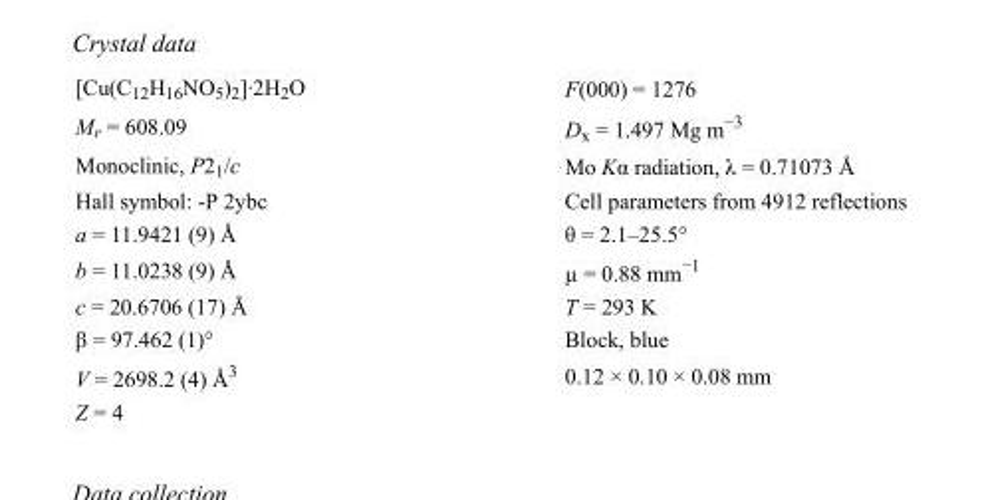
<table><tbody><tr><td>[Cu(C12H16NO5)2]·2H2O</td><td>F(000) = 1276</td></tr><tr><td>Mr = 608.09</td><td>Dx = 1.497 Mg m−3</td></tr><tr><td>Monoclinic, P21/c</td><td>Mo Kα radiation, λ = 0.71073 Å</td></tr><tr><td>Hall symbol: -P 2ybc</td><td>Cell parameters from 4912 reflections</td></tr><tr><td>a = 11.9421 (9) Å</td><td>θ = 2.1–25.5°</td></tr><tr><td>b = 11.0238 (9) Å</td><td>µ = 0.88 mm−1</td></tr><tr><td>c = 20.6706 (17) Å</td><td>T = 293 K</td></tr><tr><td>β = 97.462 (1)°</td><td>Block, blue</td></tr><tr><td>V = 2698.2 (4) Å3</td><td>0.12 × 0.10 × 0.08 mm</td></tr><tr><td>Z = 4</td><td></td></tr></tbody></table>